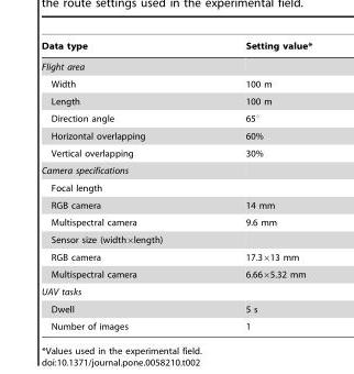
<table><thead><tr><td>Data type</td><td>Setting value*</td></tr></thead><tbody><tr><td colspan="2">Flight area</td></tr><tr><td>Width</td><td>100 m</td></tr><tr><td>Length</td><td>100 m</td></tr><tr><td>Direction angle</td><td>65°</td></tr><tr><td>Horizontal overlapping</td><td>60%</td></tr><tr><td>Vertical overlapping</td><td>30%</td></tr><tr><td colspan="2">Camera specifications</td></tr><tr><td colspan="2">Focal length</td></tr><tr><td>RGB camera</td><td>14 mm</td></tr><tr><td>Multispectral camera</td><td>9.6 mm</td></tr><tr><td colspan="2">Sensor size (width×length)</td></tr><tr><td>RGB camera</td><td>17.3×13 mm</td></tr><tr><td>Multispectral camera</td><td>6.66×5.32 mm</td></tr><tr><td colspan="2">UAV tasks</td></tr><tr><td>Dwell</td><td>5 s</td></tr><tr><td>Number of images</td><td>1</td></tr></tbody></table>